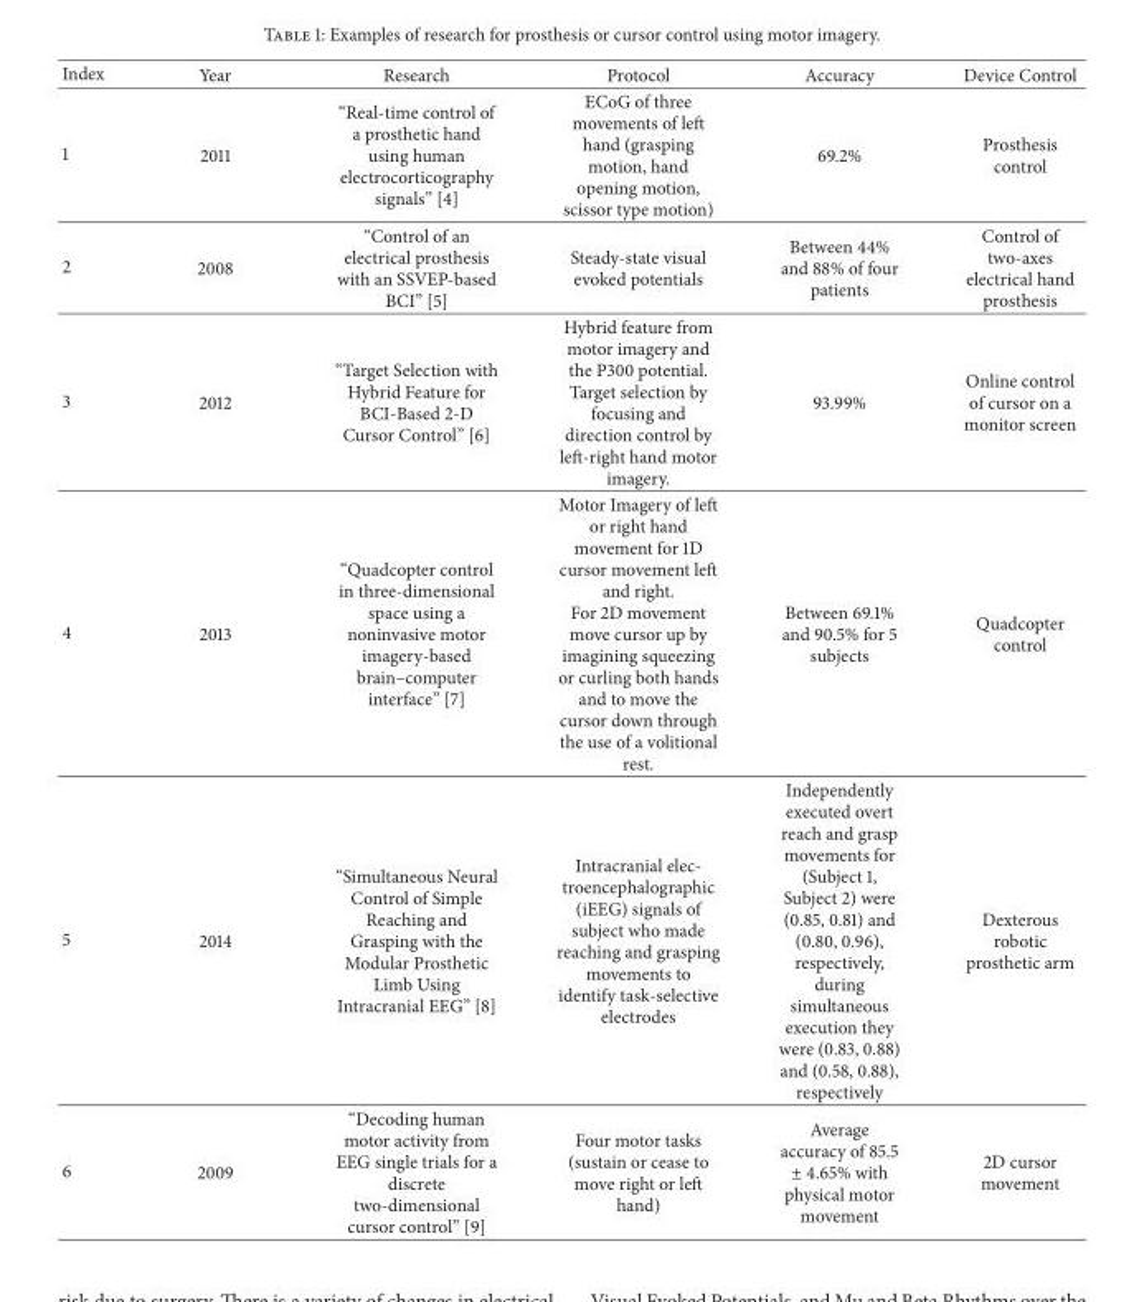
<table><thead><tr><td>Index</td><td>Year</td><td>Research</td><td>Protocol</td><td>Accuracy</td><td>Device Control</td></tr></thead><tbody><tr><td>1</td><td>2011</td><td>“Real-time control of a prosthetic hand using human electrocorticography signals” [4]</td><td>ECoG of three movements of left hand (grasping motion, hand opening motion, scissor type motion)</td><td>69.2%</td><td>Prosthesis control</td></tr><tr><td>2</td><td>2008</td><td>“Control of an electrical prosthesis with an SSVEP-based BCI” [5]</td><td>Steady-state visual evoked potentials</td><td>Between 44% and 88% of four patients</td><td>Control of two-axes electrical hand prosthesis</td></tr><tr><td>3</td><td>2012</td><td>“Target Selection with Hybrid Feature for BCI-Based 2-D Cursor Control” [6]</td><td>Hybrid feature from motor imagery and the P300 potential. Target selection by focusing and direction control by left-right hand motor imagery.</td><td>93.99%</td><td>Online control of cursor on a monitor screen</td></tr><tr><td>4</td><td>2013</td><td>“Quadcopter control in three-dimensional space using a noninvasive motor imagery-based brain–computer interface” [7]</td><td>Motor Imagery of left or right hand movement for 1D cursor movement left and right. For 2D movement move cursor up by imagining squeezing or curling both hands and to move the cursor down through the use of a volitional rest.</td><td>Between 69.1% and 90.5% for 5 subjects</td><td>Quadcopter control</td></tr><tr><td>5</td><td>2014</td><td>“Simultaneous Neural Control of Simple Reaching and Grasping with the Modular Prosthetic Limb Using Intracranial EEG” [8]</td><td>Intracranial elec- troencephalographic (iEEG) signals of subject who made reaching and grasping movements to identify task-selective electrodes</td><td>Independently executed overt reach and grasp movements for (Subject 1, Subject 2) were (0.85, 0.81) and (0.80, 0.96), respectively, during simultaneous execution they were (0.83, 0.88) and (0.58, 0.88), respectively</td><td>Dexterous robotic prosthetic arm</td></tr><tr><td>6</td><td>2009</td><td>“Decoding human motor activity from EEG single trials for a discrete two-dimensional cursor control” [9]</td><td>Four motor tasks (sustain or cease to move right or left hand)</td><td>Average accuracy of 85.5 ± 4.65% with physical motor movement</td><td>2D cursor movement</td></tr></tbody></table>